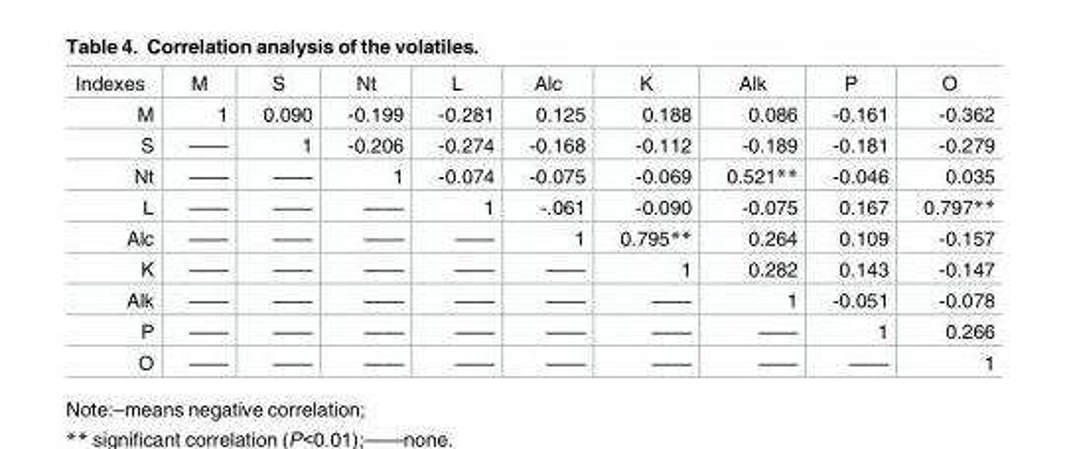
<table><tbody><tr><td>Indexes</td><td>M</td><td>S</td><td>Nt</td><td>L</td><td>Alc</td><td>K</td><td>Alk</td><td>P</td><td>O</td></tr><tr><td>M</td><td>1</td><td>0.090</td><td>-0.199</td><td>-0.281</td><td>0.125</td><td>0.188</td><td>0.086</td><td>-0.161</td><td>-0.362</td></tr><tr><td>S</td><td>——</td><td>1</td><td>-0.206</td><td>-0.274</td><td>-0.168</td><td>-0.112</td><td>-0.189</td><td>-0.181</td><td>-0.279</td></tr><tr><td>Nt</td><td>——</td><td>——</td><td>1</td><td>-0.074</td><td>-0.075</td><td>-0.069</td><td>0.521**</td><td>-0.046</td><td>0.035</td></tr><tr><td>L</td><td>——</td><td>——</td><td>——</td><td>1</td><td>-.061</td><td>-0.090</td><td>-0.075</td><td>0.167</td><td>0.797**</td></tr><tr><td>Alc</td><td>——</td><td>——</td><td>——</td><td>——</td><td>1</td><td>0.795**</td><td>0.264</td><td>0.109</td><td>-0.157</td></tr><tr><td>K</td><td>——</td><td>——</td><td>——</td><td>——</td><td>——</td><td>1</td><td>0.282</td><td>0.143</td><td>-0.147</td></tr><tr><td>Alk</td><td>——</td><td>——</td><td>——</td><td>——</td><td>——</td><td>——</td><td>1</td><td>-0.051</td><td>-0.078</td></tr><tr><td>P</td><td>——</td><td>——</td><td>——</td><td>——</td><td>——</td><td>——</td><td>——</td><td>1</td><td>0.266</td></tr><tr><td>O</td><td>——</td><td>——</td><td>——</td><td>——</td><td>——</td><td>——</td><td>——</td><td>——</td><td>1</td></tr></tbody></table>